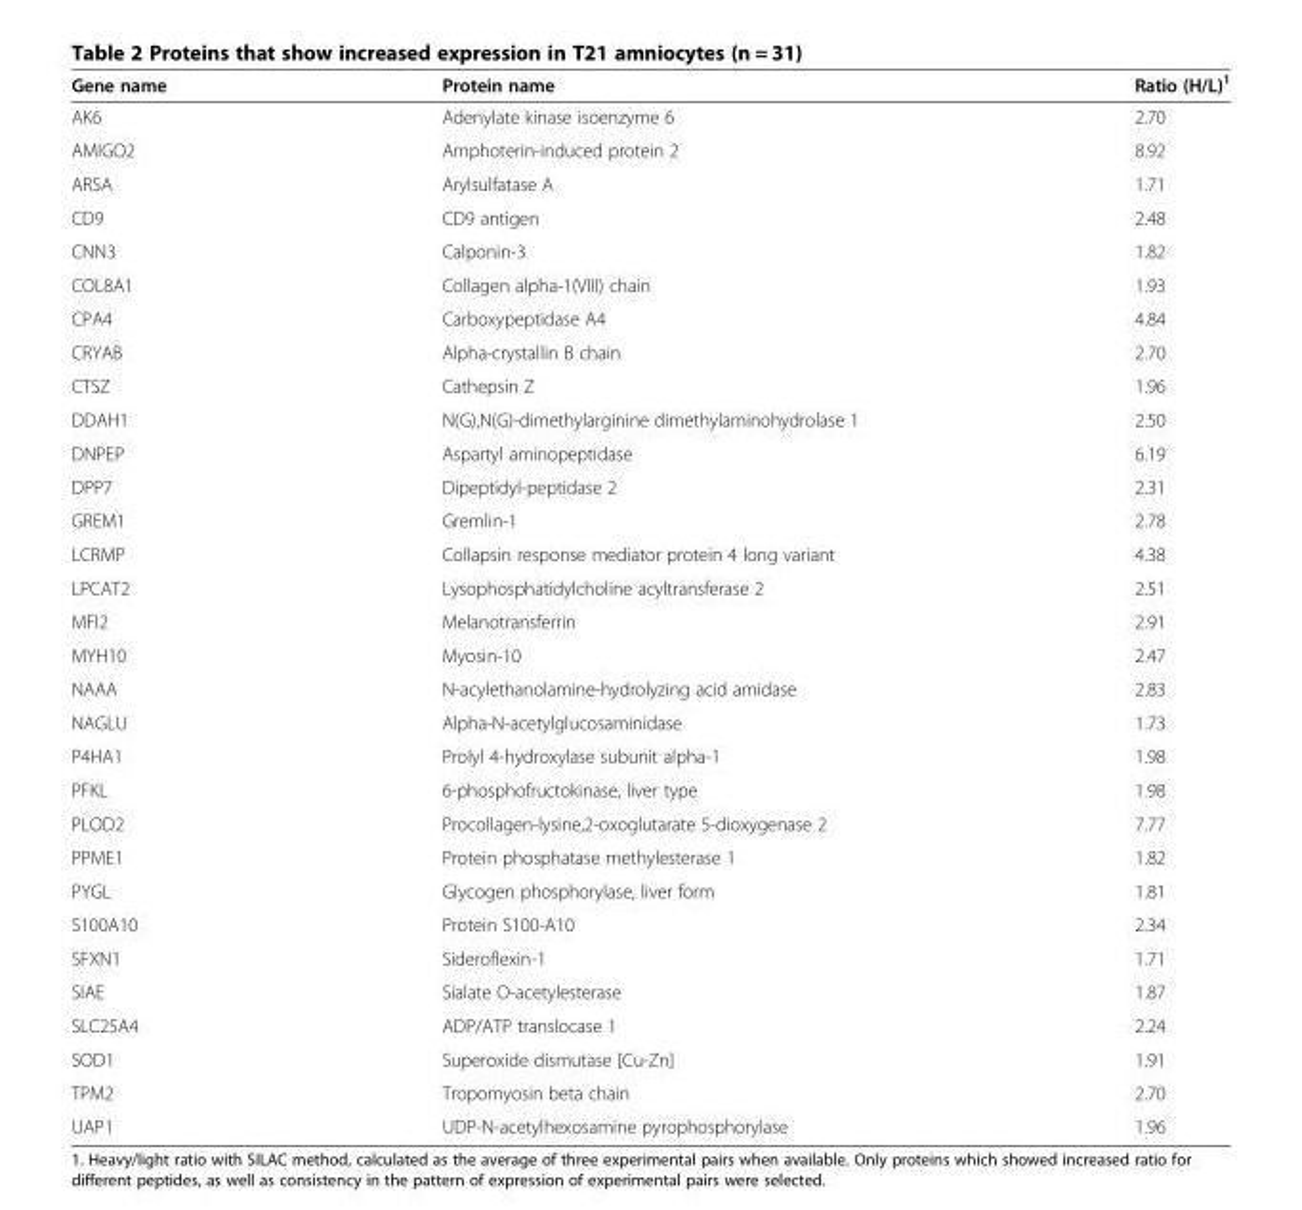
<table><thead><tr><td>Gene name</td><td>Protein name</td><td>Ratio (H/L)<sup>1</sup></td></tr></thead><tbody><tr><td>AK6</td><td>Adenylate kinase isoenzyme 6</td><td>2.70</td></tr><tr><td>AMIGO2</td><td>Amphoterin-induced protein 2</td><td>8.92</td></tr><tr><td>ARSA</td><td>Arylsulfatase A</td><td>1.71</td></tr><tr><td>CD9</td><td>CD9 antigen</td><td>2.48</td></tr><tr><td>CNN3</td><td>Calponin-3</td><td>1.82</td></tr><tr><td>COL8A1</td><td>Collagen alpha-1(VIII) chain</td><td>1.93</td></tr><tr><td>CPA4</td><td>Carboxypeptidase A4</td><td>4.84</td></tr><tr><td>CRYAB</td><td>Alpha-crystallin B chain</td><td>2.70</td></tr><tr><td>CTSZ</td><td>Cathepsin Z</td><td>1.96</td></tr><tr><td>DDAH1</td><td>N(G),N(G)-dimethylarginine dimethylaminohydrolase 1</td><td>2.50</td></tr><tr><td>DNPEP</td><td>Aspartyl aminopeptidase</td><td>6.19</td></tr><tr><td>DPP7</td><td>Dipeptidyl-peptidase 2</td><td>2.31</td></tr><tr><td>GREM1</td><td>Gremlin-1</td><td>2.78</td></tr><tr><td>LCRMP</td><td>Collapsin response mediator protein 4 long variant</td><td>4.38</td></tr><tr><td>LPCAT2</td><td>Lysophosphatidylcholine acyltransferase 2</td><td>2.51</td></tr><tr><td>MFI2</td><td>Melanotransferrin</td><td>2.91</td></tr><tr><td>MYH10</td><td>Myosin-10</td><td>2.47</td></tr><tr><td>NAAA</td><td>N-acylethanolamine-hydrolyzing acid amidase</td><td>2.83</td></tr><tr><td>NAGLU</td><td>Alpha-N-acetylglucosaminidase</td><td>1.73</td></tr><tr><td>P4HA1</td><td>Prolyl 4-hydroxylase subunit alpha-1</td><td>1.98</td></tr><tr><td>PFKL</td><td>6-phosphofructokinase, liver type</td><td>1.98</td></tr><tr><td>PLOD2</td><td>Procollagen-lysine,2-oxoglutarate 5-dioxygenase 2</td><td>7.77</td></tr><tr><td>PPME1</td><td>Protein phosphatase methylesterase 1</td><td>1.82</td></tr><tr><td>PYGL</td><td>Glycogen phosphorylase, liver form</td><td>1.81</td></tr><tr><td>S100A10</td><td>Protein S100-A10</td><td>2.34</td></tr><tr><td>SFXN1</td><td>Sideroflexin-1</td><td>1.71</td></tr><tr><td>SIAE</td><td>Sialate O-acetylesterase</td><td>1.87</td></tr><tr><td>SLC25A4</td><td>ADP/ATP translocase 1</td><td>2.24</td></tr><tr><td>SOD1</td><td>Superoxide dismutase [Cu-Zn]</td><td>1.91</td></tr><tr><td>TPM2</td><td>Tropomyosin beta chain</td><td>2.70</td></tr><tr><td>UAP1</td><td>UDP-N-acetylhexosamine pyrophosphorylase</td><td>1.96</td></tr></tbody></table>